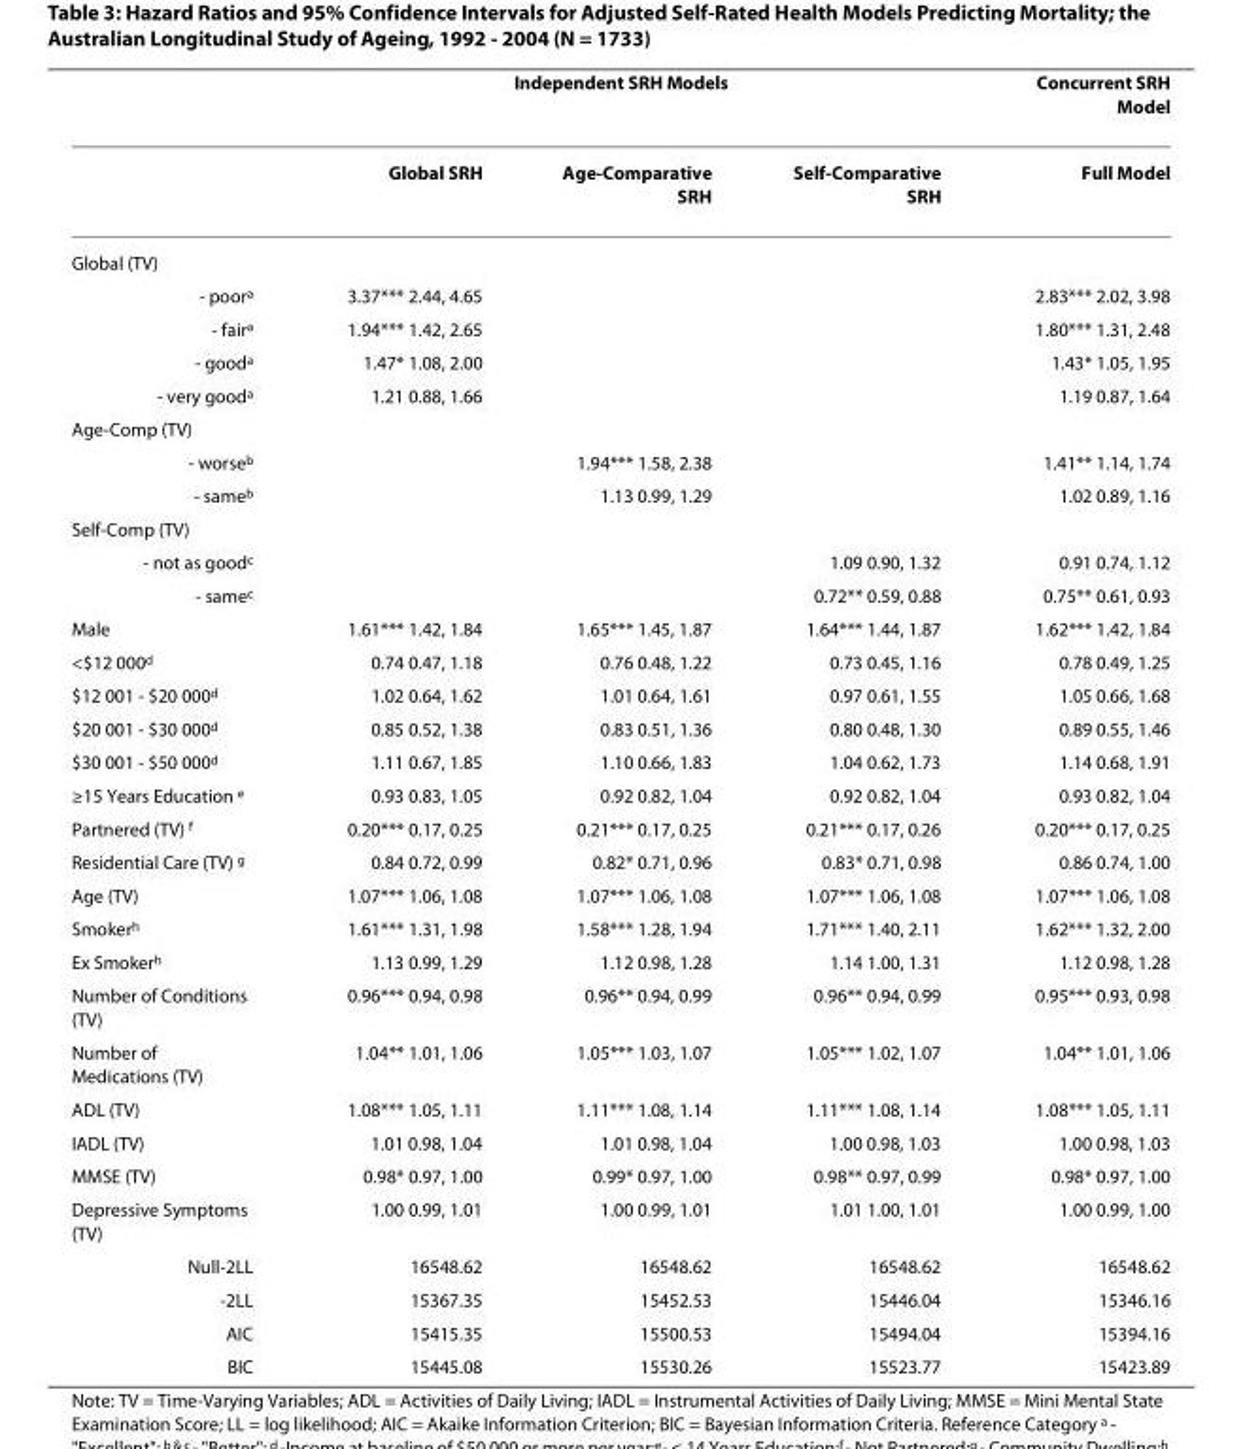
<table><thead><tr><td rowspan="2"></td><td colspan="3">Independent SRH Models</td><td rowspan="2">Concurrent SRH Model Full Model</td></tr><tr><td>Global SRH</td><td>Age-Comparative SRH</td><td>Self-Comparative SRH</td></tr></thead><tbody><tr><td colspan="5">Global (TV)</td></tr><tr><td>- poor<sup>a</sup></td><td>3.37*** 2.44, 4.65</td><td></td><td></td><td>2.83*** 2.02, 3.98</td></tr><tr><td>- fair<sup>a</sup></td><td>1.94*** 1.42, 2.65</td><td></td><td></td><td>1.80*** 1.31, 2.48</td></tr><tr><td>- good<sup>a</sup></td><td>1.47* 1.08, 2.00</td><td></td><td></td><td>1.43* 1.05, 1.95</td></tr><tr><td>- very good<sup>a</sup></td><td>1.21 0.88, 1.66</td><td></td><td></td><td>1.19 0.87, 1.64</td></tr><tr><td colspan="5">Age-Comp (TV)</td></tr><tr><td>- worse<sup>b</sup></td><td></td><td>1.94*** 1.58, 2.38</td><td></td><td>1.41** 1.14, 1.74</td></tr><tr><td>- same<sup>b</sup></td><td></td><td>1.13 0.99, 1.29</td><td></td><td>1.02 0.89, 1.16</td></tr><tr><td colspan="5">Self-Comp (TV)</td></tr><tr><td>- not as good<sup>c</sup></td><td></td><td></td><td>1.09 0.90, 1.32</td><td>0.91 0.74, 1.12</td></tr><tr><td>- same<sup>c</sup></td><td></td><td></td><td>0.72** 0.59, 0.88</td><td>0.75** 0.61, 0.93</td></tr><tr><td>Male</td><td>1.61*** 1.42, 1.84</td><td>1.65*** 1.45, 1.87</td><td>1.64*** 1.44, 1.87</td><td>1.62*** 1.42, 1.84</td></tr><tr><td>&lt;$12 000<sup>d</sup></td><td>0.74 0.47, 1.18</td><td>0.76 0.48, 1.22</td><td>0.73 0.45, 1.16</td><td>0.78 0.49, 1.25</td></tr><tr><td>$12 001 - $20 000<sup>d</sup></td><td>1.02 0.64, 1.62</td><td>1.01 0.64, 1.61</td><td>0.97 0.61, 1.55</td><td>1.05 0.66, 1.68</td></tr><tr><td>$20 001 - $30 000<sup>d</sup></td><td>0.85 0.52, 1.38</td><td>0.83 0.51, 1.36</td><td>0.80 0.48, 1.30</td><td>0.89 0.55, 1.46</td></tr><tr><td>$30 001 - $50 000<sup>d</sup></td><td>1.11 0.67, 1.85</td><td>1.10 0.66, 1.83</td><td>1.04 0.62, 1.73</td><td>1.14 0.68, 1.91</td></tr><tr><td>≥15 Years Education <sup>e</sup></td><td>0.93 0.83, 1.05</td><td>0.92 0.82, 1.04</td><td>0.92 0.82, 1.04</td><td>0.93 0.82, 1.04</td></tr><tr><td>Partnered (TV) <sup>f</sup></td><td>0.20*** 0.17, 0.25</td><td>0.21*** 0.17, 0.25</td><td>0.21*** 0.17, 0.26</td><td>0.20*** 0.17, 0.25</td></tr><tr><td>Residential Care (TV) <sup>g</sup></td><td>0.84 0.72, 0.99</td><td>0.82* 0.71, 0.96</td><td>0.83* 0.71, 0.98</td><td>0.86 0.74, 1.00</td></tr><tr><td>Age (TV)</td><td>1.07*** 1.06, 1.08</td><td>1.07*** 1.06, 1.08</td><td>1.07*** 1.06, 1.08</td><td>1.07*** 1.06, 1.08</td></tr><tr><td>Smoker<sup>h</sup></td><td>1.61*** 1.31, 1.98</td><td>1.58*** 1.28, 1.94</td><td>1.71*** 1.40, 2.11</td><td>1.62*** 1.32, 2.00</td></tr><tr><td>Ex Smoker<sup>h</sup></td><td>1.13 0.99, 1.29</td><td>1.12 0.98, 1.28</td><td>1.14 1.00, 1.31</td><td>1.12 0.98, 1.28</td></tr><tr><td>Number of Conditions (TV)</td><td>0.96*** 0.94, 0.98</td><td>0.96** 0.94, 0.99</td><td>0.96** 0.94, 0.99</td><td>0.95*** 0.93, 0.98</td></tr><tr><td>Number of Medications (TV)</td><td>1.04** 1.01, 1.06</td><td>1.05*** 1.03, 1.07</td><td>1.05*** 1.02, 1.07</td><td>1.04** 1.01, 1.06</td></tr><tr><td>ADL (TV)</td><td>1.08*** 1.05, 1.11</td><td>1.11*** 1.08, 1.14</td><td>1.11*** 1.08, 1.14</td><td>1.08*** 1.05, 1.11</td></tr><tr><td>IADL (TV)</td><td>1.01 0.98, 1.04</td><td>1.01 0.98, 1.04</td><td>1.00 0.98, 1.03</td><td>1.00 0.98, 1.03</td></tr><tr><td>MMSE (TV)</td><td>0.98* 0.97, 1.00</td><td>0.99* 0.97, 1.00</td><td>0.98** 0.97, 0.99</td><td>0.98* 0.97, 1.00</td></tr><tr><td>Depressive Symptoms (TV)</td><td>1.00 0.99, 1.01</td><td>1.00 0.99, 1.01</td><td>1.01 1.00, 1.01</td><td>1.00 0.99, 1.00</td></tr><tr><td>Null-2LL</td><td>16548.62</td><td>16548.62</td><td>16548.62</td><td>16548.62</td></tr><tr><td>-2LL</td><td>15367.35</td><td>15452.53</td><td>15446.04</td><td>15346.16</td></tr><tr><td>AIC</td><td>15415.35</td><td>15500.53</td><td>15494.04</td><td>15394.16</td></tr><tr><td>BIC</td><td>15445.08</td><td>15530.26</td><td>15523.77</td><td>15423.89</td></tr></tbody></table>